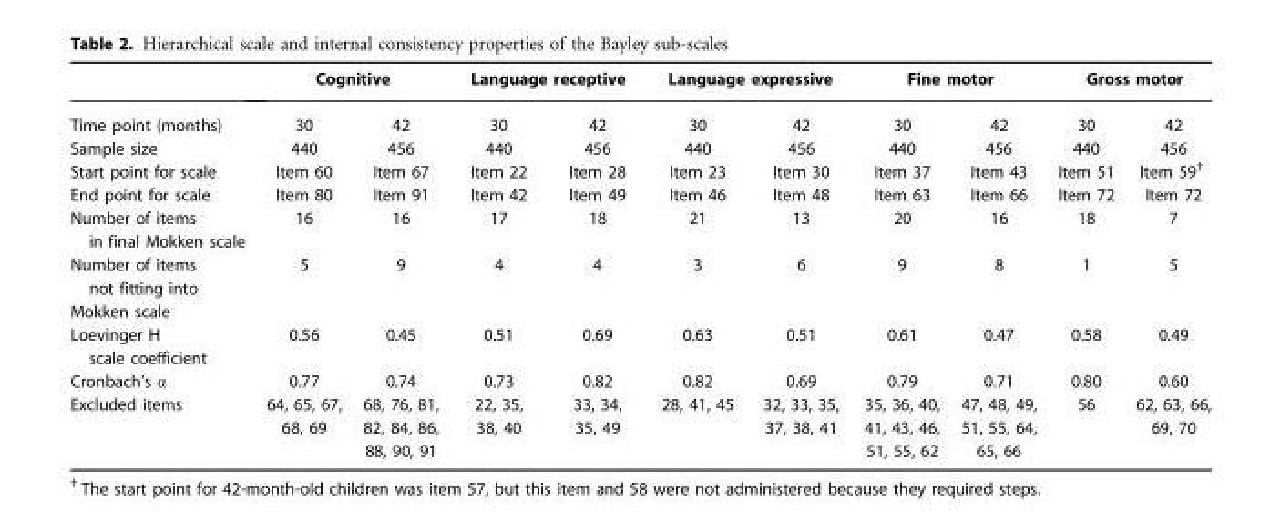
<table><thead><tr><td rowspan="2">Time point (months)</td><td colspan="2">Cognitive</td><td colspan="2">Language receptive</td><td colspan="2">Language expressive</td><td colspan="2">Fine motor</td><td colspan="2">Gross motor</td></tr><tr><td>30</td><td>42</td><td>30</td><td>42</td><td>30</td><td>42</td><td>30</td><td>42</td><td>30</td><td>42</td></tr></thead><tbody><tr><td>Sample size</td><td>440</td><td>456</td><td>440</td><td>456</td><td>440</td><td>456</td><td>440</td><td>456</td><td>440</td><td>456</td></tr><tr><td>Start point for scale</td><td>Item 60</td><td>Item 67</td><td>Item 22</td><td>Item 28</td><td>Item 23</td><td>Item 30</td><td>Item 37</td><td>Item 43</td><td>Item 51</td><td>Item 59†</td></tr><tr><td>End point for scale</td><td>Item 80</td><td>Item 91</td><td>Item 42</td><td>Item 49</td><td>Item 46</td><td>Item 48</td><td>Item 63</td><td>Item 66</td><td>Item 72</td><td>Item 72</td></tr><tr><td>Number of items in final Mokken scale</td><td>16</td><td>16</td><td>17</td><td>18</td><td>21</td><td>13</td><td>20</td><td>16</td><td>18</td><td>7</td></tr><tr><td>Number of items not fitting into Mokken scale</td><td>5</td><td>9</td><td>4</td><td>4</td><td>3</td><td>6</td><td>9</td><td>8</td><td>1</td><td>5</td></tr><tr><td>Loevinger H scale coefficient</td><td>0.56</td><td>0.45</td><td>0.51</td><td>0.69</td><td>0.63</td><td>0.51</td><td>0.61</td><td>0.47</td><td>0.58</td><td>0.49</td></tr><tr><td>Cronbach’s α</td><td>0.77</td><td>0.74</td><td>0.73</td><td>0.82</td><td>0.82</td><td>0.69</td><td>0.79</td><td>0.71</td><td>0.80</td><td>0.60</td></tr><tr><td>Excluded items</td><td>64, 65, 67, 68, 69</td><td>68, 76, 81, 82, 84, 86, 88, 90, 91</td><td>22, 35, 38, 40</td><td>33, 34, 35, 49</td><td>28, 41, 45</td><td>32, 33, 35, 37, 38, 41</td><td>35, 36, 40, 41, 43, 46, 51, 55, 62</td><td>47, 48, 49, 51, 55, 64, 65, 66</td><td>56</td><td>62, 63, 66, 69, 70</td></tr></tbody></table>